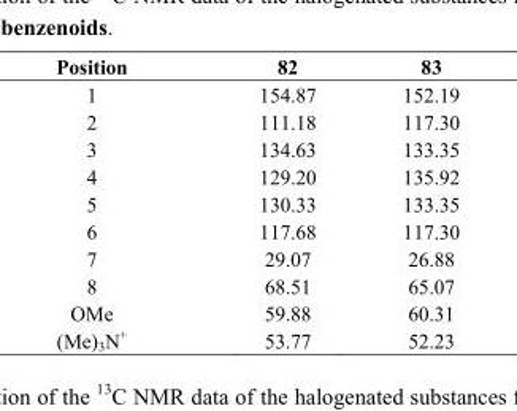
<table><thead><tr><td>Position</td><td>82</td><td>83</td></tr></thead><tbody><tr><td>1</td><td>154.87</td><td>152.19</td></tr><tr><td>2</td><td>111.18</td><td>117.30</td></tr><tr><td>3</td><td>134.63</td><td>133.35</td></tr><tr><td>4</td><td>129.20</td><td>135.92</td></tr><tr><td>5</td><td>130.33</td><td>133.35</td></tr><tr><td>6</td><td>117.68</td><td>117.30</td></tr><tr><td>7</td><td>29.07</td><td>26.88</td></tr><tr><td>8</td><td>68.51</td><td>65.07</td></tr><tr><td>OMe</td><td>59.88</td><td>60.31</td></tr><tr><td>(Me)<sub>3</sub>N+</td><td>53.77</td><td>52.23</td></tr></tbody></table>